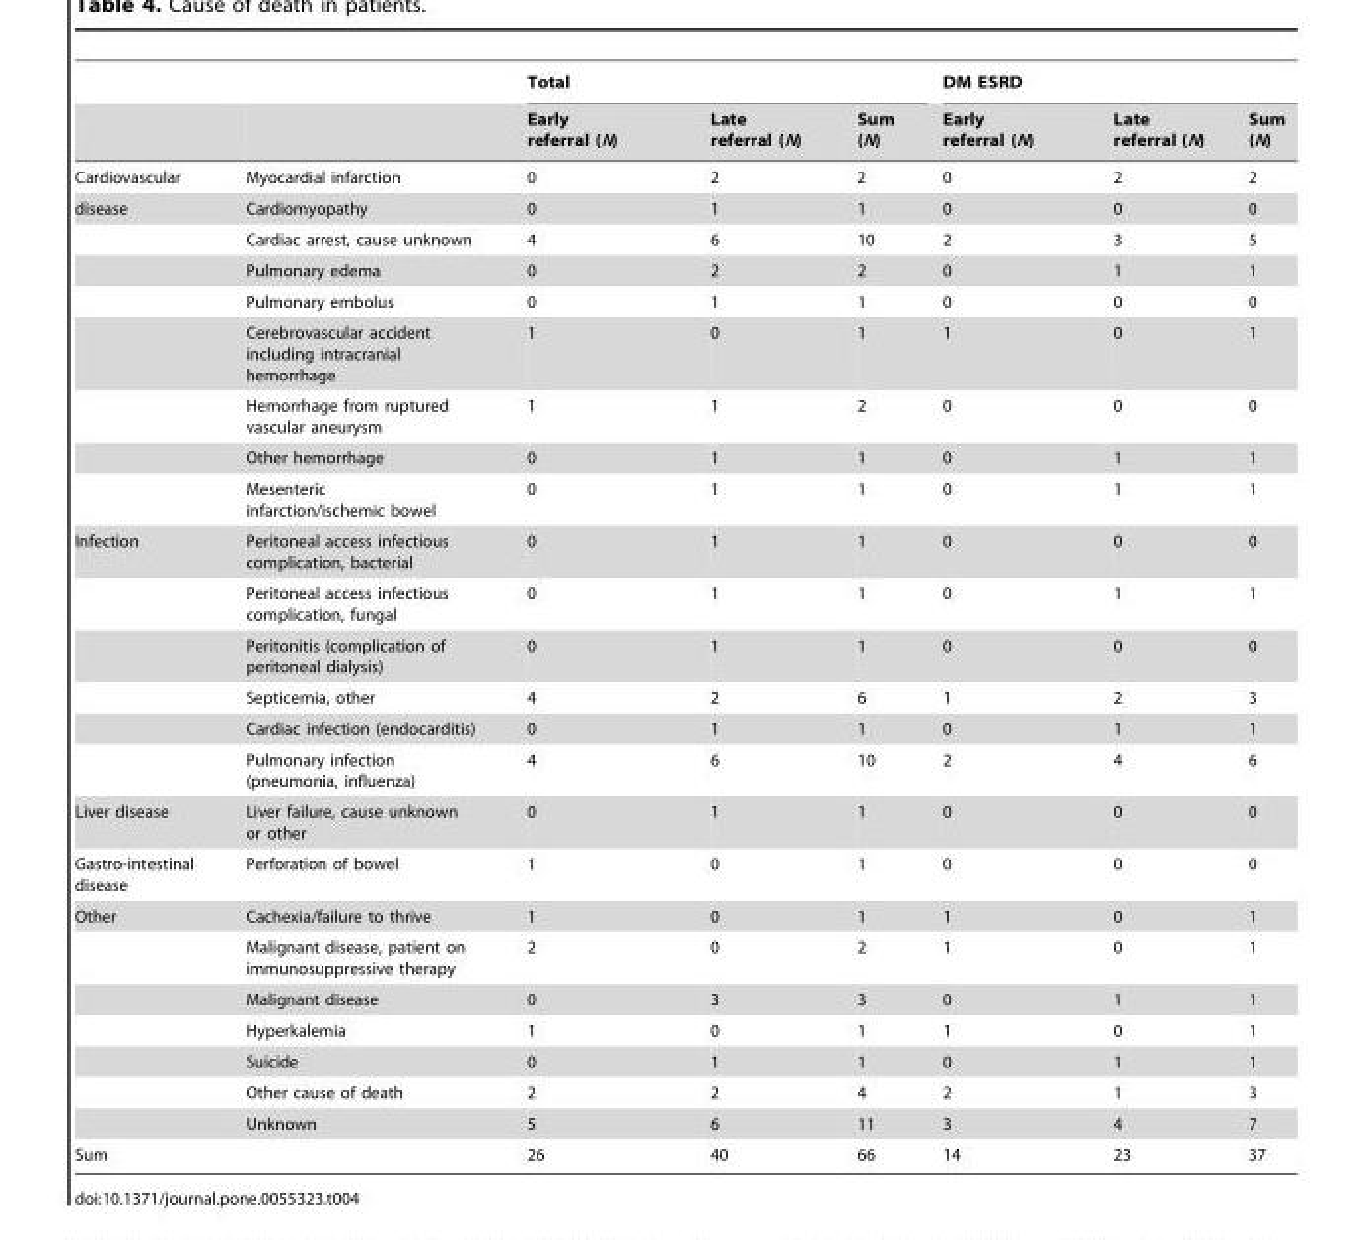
<table><thead><tr><td rowspan="2"></td><td rowspan="2"></td><td colspan="3">Total</td><td colspan="3">DM ESRD</td></tr><tr><td>Early referral (N)</td><td>Late referral (N)</td><td>Sum (N)</td><td>Early referral (N)</td><td>Late referral (N)</td><td>Sum (N)</td></tr></thead><tbody><tr><td>Cardiovascular</td><td>Myocardial infarction</td><td>0</td><td>2</td><td>2</td><td>0</td><td>2</td><td>2</td></tr><tr><td rowspan="8">disease</td><td>Cardiomyopathy</td><td>0</td><td>1</td><td>1</td><td>0</td><td>0</td><td>0</td></tr><tr><td>Cardiac arrest, cause unknown</td><td>4</td><td>6</td><td>10</td><td>2</td><td>3</td><td>5</td></tr><tr><td>Pulmonary edema</td><td>0</td><td>2</td><td>2</td><td>0</td><td>1</td><td>1</td></tr><tr><td>Pulmonary embolus</td><td>0</td><td>1</td><td>1</td><td>0</td><td>0</td><td>0</td></tr><tr><td>Cerebrovascular accident including intracranial hemorrhage</td><td>1</td><td>0</td><td>1</td><td>1</td><td>0</td><td>1</td></tr><tr><td>Hemorrhage from ruptured vascular aneurysm</td><td>1</td><td>1</td><td>2</td><td>0</td><td>0</td><td>0</td></tr><tr><td>Other hemorrhage</td><td>0</td><td>1</td><td>1</td><td>0</td><td>1</td><td>1</td></tr><tr><td>Mesenteric infarction/ischemic bowel</td><td>0</td><td>1</td><td>1</td><td>0</td><td>1</td><td>1</td></tr><tr><td rowspan="6">Infection</td><td>Peritoneal access infectious complication, bacterial</td><td>0</td><td>1</td><td>1</td><td>0</td><td>0</td><td>0</td></tr><tr><td>Peritoneal access infectious complication, fungal</td><td>0</td><td>1</td><td>1</td><td>0</td><td>1</td><td>1</td></tr><tr><td>Peritonitis (complication of peritoneal dialysis)</td><td>0</td><td>1</td><td>1</td><td>0</td><td>0</td><td>0</td></tr><tr><td>Septicemia, other</td><td>4</td><td>2</td><td>6</td><td>1</td><td>2</td><td>3</td></tr><tr><td>Cardiac infection (endocarditis)</td><td>0</td><td>1</td><td>1</td><td>0</td><td>1</td><td>1</td></tr><tr><td>Pulmonary infection (pneumonia, influenza)</td><td>4</td><td>6</td><td>10</td><td>2</td><td>4</td><td>6</td></tr><tr><td>Liver disease</td><td>Liver failure, cause unknown or other</td><td>0</td><td>1</td><td>1</td><td>0</td><td>0</td><td>0</td></tr><tr><td>Gastro-intestinal disease</td><td>Perforation of bowel</td><td>1</td><td>0</td><td>1</td><td>0</td><td>0</td><td>0</td></tr><tr><td rowspan="7">Other</td><td>Cachexia/failure to thrive</td><td>1</td><td>0</td><td>1</td><td>1</td><td>0</td><td>1</td></tr><tr><td>Malignant disease, patient on immunosuppressive therapy</td><td>2</td><td>0</td><td>2</td><td>1</td><td>0</td><td>1</td></tr><tr><td>Malignant disease</td><td>0</td><td>3</td><td>3</td><td>0</td><td>1</td><td>1</td></tr><tr><td>Hyperkalemia</td><td>1</td><td>0</td><td>1</td><td>1</td><td>0</td><td>1</td></tr><tr><td>Suicide</td><td>0</td><td>1</td><td>1</td><td>0</td><td>1</td><td>1</td></tr><tr><td>Other cause of death</td><td>2</td><td>2</td><td>4</td><td>2</td><td>1</td><td>3</td></tr><tr><td>Unknown</td><td>5</td><td>6</td><td>11</td><td>3</td><td>4</td><td>7</td></tr><tr><td>Sum</td><td></td><td>26</td><td>40</td><td>66</td><td>14</td><td>23</td><td>37</td></tr></tbody></table>